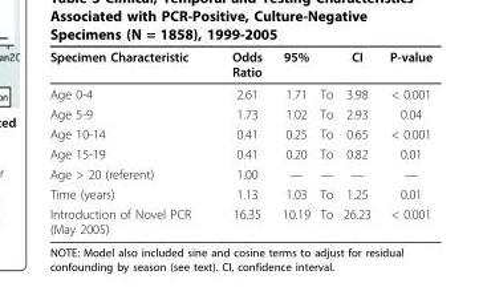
<table><thead><tr><td>Specimen Characteristic</td><td>Odds Ratio</td><td>95%</td><td></td><td>CI</td><td>P-value</td></tr></thead><tbody><tr><td>Age 0-4</td><td>2.61</td><td>1.71</td><td>To</td><td>3.98</td><td>&lt; 0.001</td></tr><tr><td>Age 5-9</td><td>1.73</td><td>1.02</td><td>To</td><td>2.93</td><td>0.04</td></tr><tr><td>Age 10-14</td><td>0.41</td><td>0.25</td><td>To</td><td>0.65</td><td>&lt; 0.001</td></tr><tr><td>Age 15-19</td><td>0.41</td><td>0.20</td><td>To</td><td>0.82</td><td>0.01</td></tr><tr><td>Age &gt; 20 (referent)</td><td>1.00</td><td>—</td><td>—</td><td>—</td><td>—</td></tr><tr><td>Time (years)</td><td>1.13</td><td>1.03</td><td>To</td><td>1.25</td><td>0.01</td></tr><tr><td>Introduction of Novel PCR (May 2005)</td><td>16.35</td><td>10.19</td><td>To</td><td>26.23</td><td>&lt; 0.001</td></tr></tbody></table>